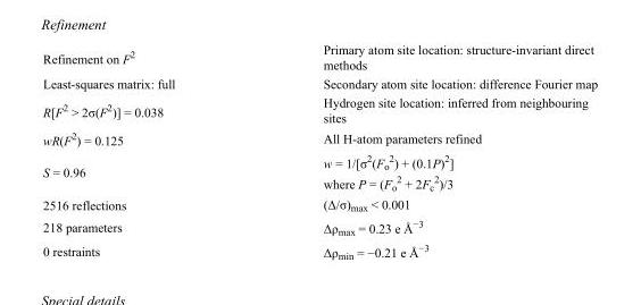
<table><tbody><tr><td>Refinement on F<sup>2</sup></td><td>Primary atom site location: structure-invariant direct methods</td></tr><tr><td>Least-squares matrix: full</td><td>Secondary atom site location: difference Fourier map</td></tr><tr><td>R[F<sup>2</sup> &gt; 2σ(F<sup>2</sup>)] = 0.038</td><td>Hydrogen site location: inferred from neighbouring sites</td></tr><tr><td>wR(F<sup>2</sup>) = 0.125</td><td>All H-atom parameters refined</td></tr><tr><td>S = 0.96</td><td>w = 1/[σ<sup>2</sup>(F<sub>o</sub> <sup>2</sup>) + (0.1P)<sup>2</sup>] where P = (F<sub>o</sub> <sup>2</sup> + 2F<sub>c</sub> <sup>2</sup>)/3</td></tr><tr><td>2516 reflections</td><td>(Δ/σ)<sub>max</sub> &lt; 0.001</td></tr><tr><td>218 parameters</td><td>Δρ<sub>max</sub> = 0.23 e Å<sup>−3</sup></td></tr><tr><td>0 restraints</td><td>Δρ<sub>min</sub> = −0.21 e Å<sup>−3</sup></td></tr></tbody></table>